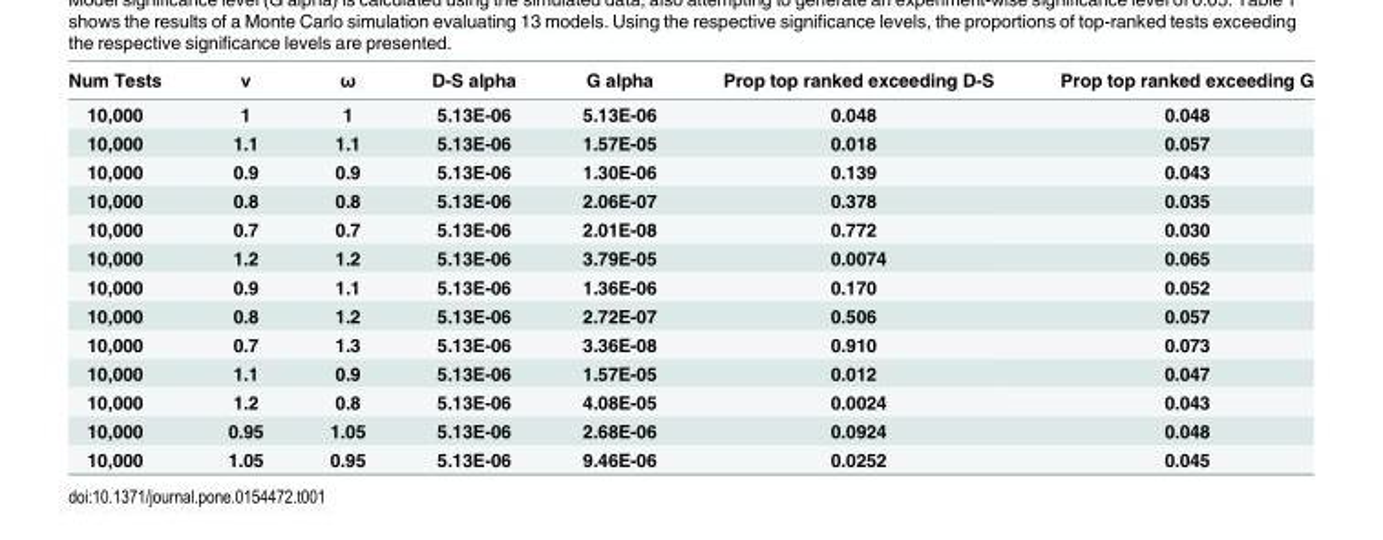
<table><thead><tr><td>Num Tests</td><td>ν</td><td>ω</td><td>D-S alpha</td><td>G alpha</td><td>Prop top ranked exceeding D-S</td><td>Prop top ranked exceeding G</td></tr></thead><tbody><tr><td>10,000</td><td>1</td><td>1</td><td>5.13E-06</td><td>5.13E-06</td><td>0.048</td><td>0.048</td></tr><tr><td>10,000</td><td>1.1</td><td>1.1</td><td>5.13E-06</td><td>1.57E-05</td><td>0.018</td><td>0.057</td></tr><tr><td>10,000</td><td>0.9</td><td>0.9</td><td>5.13E-06</td><td>1.30E-06</td><td>0.139</td><td>0.043</td></tr><tr><td>10,000</td><td>0.8</td><td>0.8</td><td>5.13E-06</td><td>2.06E-07</td><td>0.378</td><td>0.035</td></tr><tr><td>10,000</td><td>0.7</td><td>0.7</td><td>5.13E-06</td><td>2.01E-08</td><td>0.772</td><td>0.030</td></tr><tr><td>10,000</td><td>1.2</td><td>1.2</td><td>5.13E-06</td><td>3.79E-05</td><td>0.0074</td><td>0.065</td></tr><tr><td>10,000</td><td>0.9</td><td>1.1</td><td>5.13E-06</td><td>1.36E-06</td><td>0.170</td><td>0.052</td></tr><tr><td>10,000</td><td>0.8</td><td>1.2</td><td>5.13E-06</td><td>2.72E-07</td><td>0.506</td><td>0.057</td></tr><tr><td>10,000</td><td>0.7</td><td>1.3</td><td>5.13E-06</td><td>3.36E-08</td><td>0.910</td><td>0.073</td></tr><tr><td>10,000</td><td>1.1</td><td>0.9</td><td>5.13E-06</td><td>1.57E-05</td><td>0.012</td><td>0.047</td></tr><tr><td>10,000</td><td>1.2</td><td>0.8</td><td>5.13E-06</td><td>4.08E-05</td><td>0.0024</td><td>0.043</td></tr><tr><td>10,000</td><td>0.95</td><td>1.05</td><td>5.13E-06</td><td>2.68E-06</td><td>0.0924</td><td>0.048</td></tr><tr><td>10,000</td><td>1.05</td><td>0.95</td><td>5.13E-06</td><td>9.46E-06</td><td>0.0252</td><td>0.045</td></tr></tbody></table>